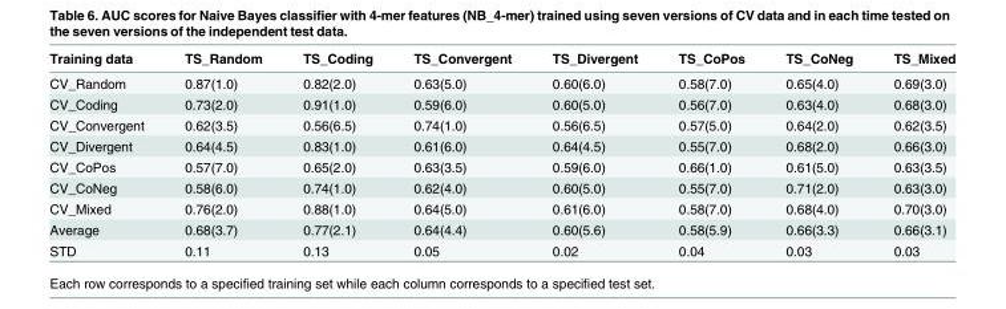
<table><thead><tr><td>Training data</td><td>TS_Random</td><td>TS_Coding</td><td>TS_Convergent</td><td>TS_Divergent</td><td>TS_CoPos</td><td>TS_CoNeg</td><td>TS_Mixed</td></tr></thead><tbody><tr><td>CV_Random</td><td>0.87(1.0)</td><td>0.82(2.0)</td><td>0.63(5.0)</td><td>0.60(6.0)</td><td>0.58(7.0)</td><td>0.65(4.0)</td><td>0.69(3.0)</td></tr><tr><td>CV_Coding</td><td>0.73(2.0)</td><td>0.91(1.0)</td><td>0.59(6.0)</td><td>0.60(5.0)</td><td>0.56(7.0)</td><td>0.63(4.0)</td><td>0.68(3.0)</td></tr><tr><td>CV_Convergent</td><td>0.62(3.5)</td><td>0.56(6.5)</td><td>0.74(1.0)</td><td>0.56(6.5)</td><td>0.57(5.0)</td><td>0.64(2.0)</td><td>0.62(3.5)</td></tr><tr><td>CV_Divergent</td><td>0.64(4.5)</td><td>0.83(1.0)</td><td>0.61(6.0)</td><td>0.64(4.5)</td><td>0.55(7.0)</td><td>0.68(2.0)</td><td>0.66(3.0)</td></tr><tr><td>CV_CoPos</td><td>0.57(7.0)</td><td>0.65(2.0)</td><td>0.63(3.5)</td><td>0.59(6.0)</td><td>0.66(1.0)</td><td>0.61(5.0)</td><td>0.63(3.5)</td></tr><tr><td>CV_CoNeg</td><td>0.58(6.0)</td><td>0.74(1.0)</td><td>0.62(4.0)</td><td>0.60(5.0)</td><td>0.55(7.0)</td><td>0.71(2.0)</td><td>0.63(3.0)</td></tr><tr><td>CV_Mixed</td><td>0.76(2.0)</td><td>0.88(1.0)</td><td>0.64(5.0)</td><td>0.61(6.0)</td><td>0.58(7.0)</td><td>0.68(4.0)</td><td>0.70(3.0)</td></tr><tr><td>Average</td><td>0.68(3.7)</td><td>0.77(2.1)</td><td>0.64(4.4)</td><td>0.60(5.6)</td><td>0.58(5.9)</td><td>0.66(3.3)</td><td>0.66(3.1)</td></tr><tr><td>STD</td><td>0.11</td><td>0.13</td><td>0.05</td><td>0.02</td><td>0.04</td><td>0.03</td><td>0.03</td></tr></tbody></table>